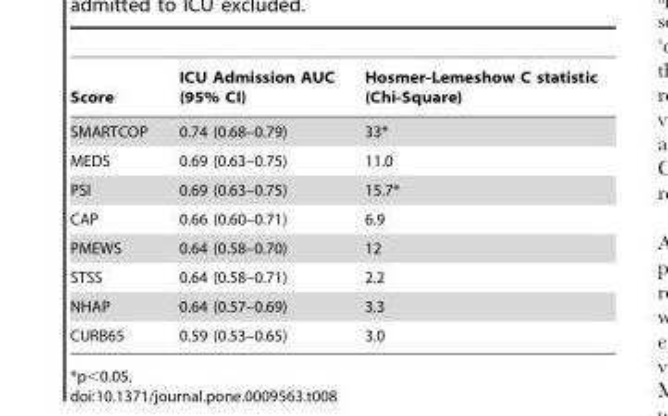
<table><thead><tr><td>Score</td><td>ICU Admission AUC (95% CI)</td><td>Hosmer-Lemeshow C statistic (Chi-Square)</td></tr></thead><tbody><tr><td>SMARTCOP</td><td>0.74 (0.68–0.79)</td><td>33*</td></tr><tr><td>MEDS</td><td>0.69 (0.63–0.75)</td><td>11.0</td></tr><tr><td>PSI</td><td>0.69 (0.63–0.75)</td><td>15.7*</td></tr><tr><td>CAP</td><td>0.66 (0.60–0.71)</td><td>6.9</td></tr><tr><td>PMEWS</td><td>0.64 (0.58–0.70)</td><td>12</td></tr><tr><td>STSS</td><td>0.64 (0.58–0.71)</td><td>2.2</td></tr><tr><td>NHAP</td><td>0.64 (0.57–0.69)</td><td>3.3</td></tr><tr><td>CURB65</td><td>0.59 (0.53–0.65)</td><td>3.0</td></tr></tbody></table>